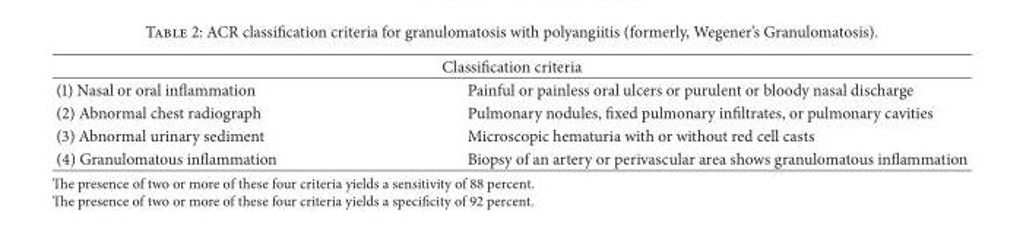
<table><thead><tr><td colspan="2">Classification criteria</td></tr><tr><td>(1) Nasal or oral inflammation</td><td>Painful or painless oral ulcers or purulent or bloody nasal discharge</td></tr></thead><tbody><tr><td>(2) Abnormal chest radiograph</td><td>Pulmonary nodules, fixed pulmonary infiltrates, or pulmonary cavities</td></tr><tr><td>(3) Abnormal urinary sediment</td><td>Microscopic hematuria with or without red cell casts</td></tr><tr><td>(4) Granulomatous inflammation</td><td>Biopsy of an artery or perivascular area shows granulomatous inflammation</td></tr></tbody></table>